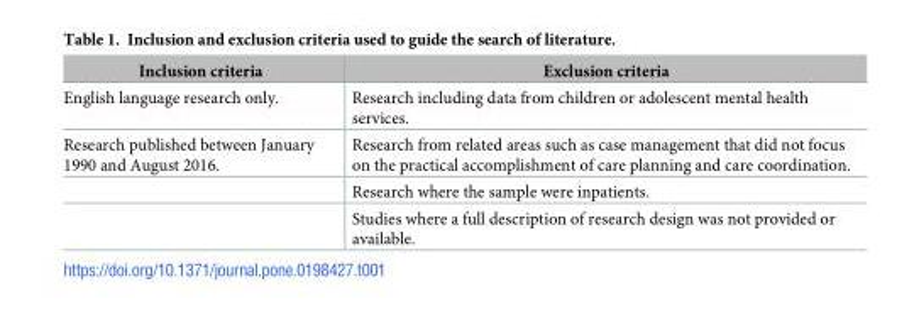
<table><thead><tr><td>Inclusion criteria</td><td>Exclusion criteria</td></tr></thead><tbody><tr><td>English language research only.</td><td>Research including data from children or adolescent mental health services.</td></tr><tr><td rowspan="3">Research published between January 1990 and August 2016.</td><td>Research from related areas such as case management that did not focus on the practical accomplishment of care planning and care coordination.</td></tr><tr><td>Research where the sample were inpatients.</td></tr><tr><td>Studies where a full description of research design was not provided or available.</td></tr></tbody></table>